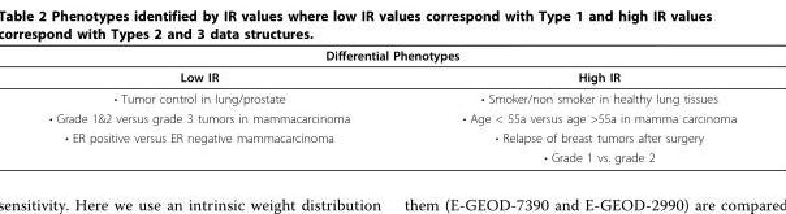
<table><thead><tr><td colspan="2">Differential Phenotypes</td></tr><tr><td>Low IR</td><td>High IR</td></tr></thead><tbody><tr><td>• Tumor control in lung/prostate</td><td>• Smoker/non smoker in healthy lung tissues</td></tr><tr><td>• Grade 1&amp;2 versus grade 3 tumors in mammacarcinoma</td><td>• Age &lt; 55a versus age &gt;55a in mamma carcinoma</td></tr><tr><td rowspan="2">• ER positive versus ER negative mammacarcinoma</td><td>• Relapse of breast tumors after surgery</td></tr><tr><td>• Grade 1 vs. grade 2</td></tr></tbody></table>